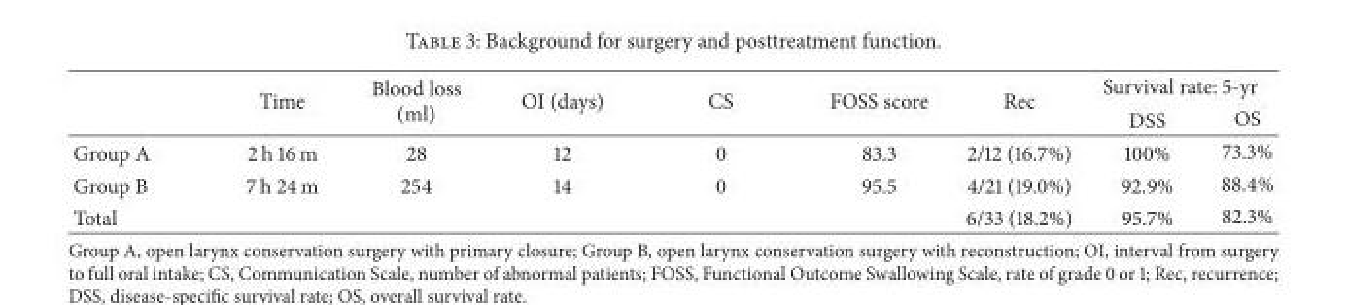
<table><thead><tr><td rowspan="2"></td><td rowspan="2">Time</td><td rowspan="2">Blood loss (ml)</td><td rowspan="2">OI (days)</td><td rowspan="2">CS</td><td rowspan="2">FOSS score</td><td rowspan="2">Rec</td><td colspan="2">Survival rate: 5-yr</td></tr><tr><td>DSS</td><td>OS</td></tr></thead><tbody><tr><td>Group A</td><td>2 h 16 m</td><td>28</td><td>12</td><td>0</td><td>83.3</td><td>2/12 (16.7%)</td><td>100%</td><td>73.3%</td></tr><tr><td>Group B</td><td>7 h 24 m</td><td>254</td><td>14</td><td>0</td><td>95.5</td><td>4/21 (19.0%)</td><td>92.9%</td><td>88.4%</td></tr><tr><td>Total</td><td></td><td></td><td></td><td></td><td></td><td>6/33 (18.2%)</td><td>95.7%</td><td>82.3%</td></tr></tbody></table>